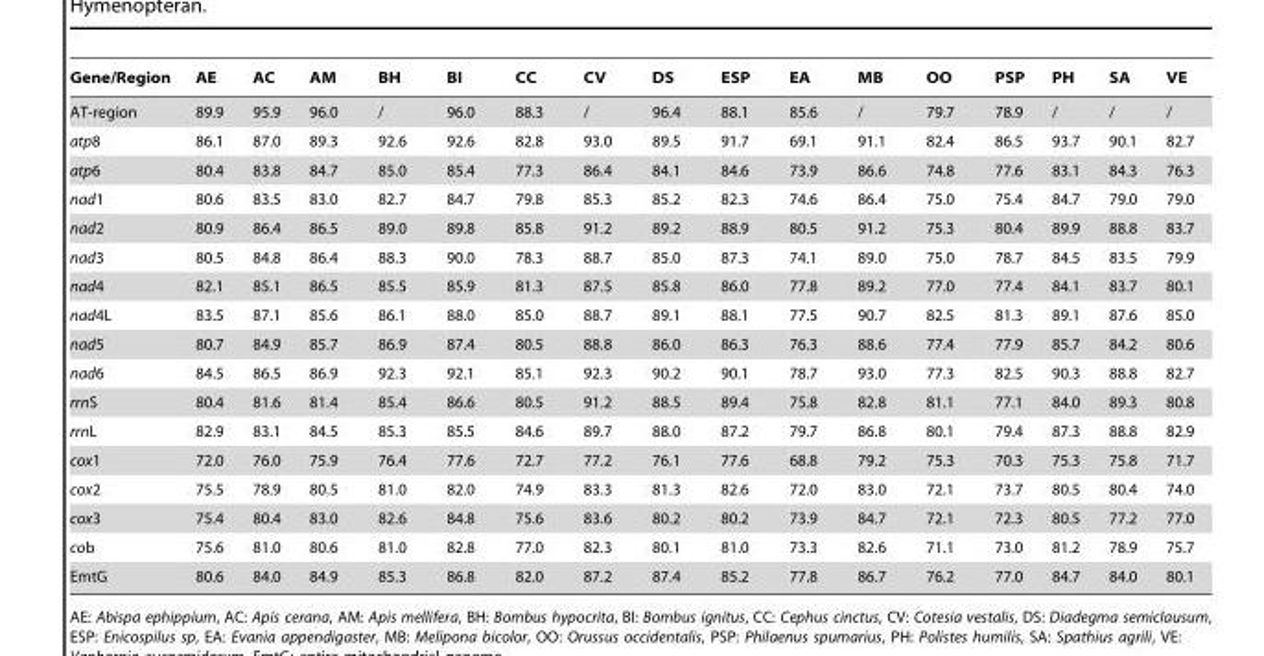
<table><thead><tr><td>Gene/Region</td><td>AE</td><td>AC</td><td>AM</td><td>BH</td><td>BI</td><td>CC</td><td>CV</td><td>DS</td><td>ESP</td><td>EA</td><td>MB</td><td>OO</td><td>PSP</td><td>PH</td><td>SA</td><td>VE</td></tr></thead><tbody><tr><td>AT-region</td><td>89.9</td><td>95.9</td><td>96.0</td><td>/</td><td>96.0</td><td>88.3</td><td>/</td><td>96.4</td><td>88.1</td><td>85.6</td><td>/</td><td>79.7</td><td>78.9</td><td>/</td><td>/</td><td>/</td></tr><tr><td>atp8</td><td>86.1</td><td>87.0</td><td>89.3</td><td>92.6</td><td>92.6</td><td>82.8</td><td>93.0</td><td>89.5</td><td>91.7</td><td>69.1</td><td>91.1</td><td>82.4</td><td>86.5</td><td>93.7</td><td>90.1</td><td>82.7</td></tr><tr><td>atp6</td><td>80.4</td><td>83.8</td><td>84.7</td><td>85.0</td><td>85.4</td><td>77.3</td><td>86.4</td><td>84.1</td><td>84.6</td><td>73.9</td><td>86.6</td><td>74.8</td><td>77.6</td><td>83.1</td><td>84.3</td><td>76.3</td></tr><tr><td>nad1</td><td>80.6</td><td>83.5</td><td>83.0</td><td>82.7</td><td>84.7</td><td>79.8</td><td>85.3</td><td>85.2</td><td>82.3</td><td>74.6</td><td>86.4</td><td>75.0</td><td>75.4</td><td>84.7</td><td>79.0</td><td>79.0</td></tr><tr><td>nad2</td><td>80.9</td><td>86.4</td><td>86.5</td><td>89.0</td><td>89.8</td><td>85.8</td><td>91.2</td><td>89.2</td><td>88.9</td><td>80.5</td><td>91.2</td><td>75.3</td><td>80.4</td><td>89.9</td><td>88.8</td><td>83.7</td></tr><tr><td>nad3</td><td>80.5</td><td>84.8</td><td>86.4</td><td>88.3</td><td>90.0</td><td>78.3</td><td>88.7</td><td>85.0</td><td>87.3</td><td>74.1</td><td>89.0</td><td>75.0</td><td>78.7</td><td>84.5</td><td>83.5</td><td>79.9</td></tr><tr><td>nad4</td><td>82.1</td><td>85.1</td><td>86.5</td><td>85.5</td><td>85.9</td><td>81.3</td><td>87.5</td><td>85.8</td><td>86.0</td><td>77.8</td><td>89.2</td><td>77.0</td><td>77.4</td><td>84.1</td><td>83.7</td><td>80.1</td></tr><tr><td>nad4L</td><td>83.5</td><td>87.1</td><td>85.6</td><td>86.1</td><td>88.0</td><td>85.0</td><td>88.7</td><td>89.1</td><td>88.1</td><td>77.5</td><td>90.7</td><td>82.5</td><td>81.3</td><td>89.1</td><td>87.6</td><td>85.0</td></tr><tr><td>nad5</td><td>80.7</td><td>84.9</td><td>85.7</td><td>86.9</td><td>87.4</td><td>80.5</td><td>88.8</td><td>86.0</td><td>86.3</td><td>76.3</td><td>88.6</td><td>77.4</td><td>77.9</td><td>85.7</td><td>84.2</td><td>80.6</td></tr><tr><td>nad6</td><td>84.5</td><td>86.5</td><td>86.9</td><td>92.3</td><td>92.1</td><td>85.1</td><td>92.3</td><td>90.2</td><td>90.1</td><td>78.7</td><td>93.0</td><td>77.3</td><td>82.5</td><td>90.3</td><td>88.8</td><td>82.7</td></tr><tr><td>rrnS</td><td>80.4</td><td>81.6</td><td>81.4</td><td>85.4</td><td>86.6</td><td>80.5</td><td>91.2</td><td>88.5</td><td>89.4</td><td>75.8</td><td>82.8</td><td>81.1</td><td>77.1</td><td>84.0</td><td>89.3</td><td>80.8</td></tr><tr><td>rrnL</td><td>82.9</td><td>83.1</td><td>84.5</td><td>85.3</td><td>85.5</td><td>84.6</td><td>89.7</td><td>88.0</td><td>87.2</td><td>79.7</td><td>86.8</td><td>80.1</td><td>79.4</td><td>87.3</td><td>88.8</td><td>82.9</td></tr><tr><td>cox1</td><td>72.0</td><td>76.0</td><td>75.9</td><td>76.4</td><td>77.6</td><td>72.7</td><td>77.2</td><td>76.1</td><td>77.6</td><td>68.8</td><td>79.2</td><td>75.3</td><td>70.3</td><td>75.3</td><td>75.8</td><td>71.7</td></tr><tr><td>cox2</td><td>75.5</td><td>78.9</td><td>80.5</td><td>81.0</td><td>82.0</td><td>74.9</td><td>83.3</td><td>81.3</td><td>82.6</td><td>72.0</td><td>83.0</td><td>72.1</td><td>73.7</td><td>80.5</td><td>80.4</td><td>74.0</td></tr><tr><td>cox3</td><td>75.4</td><td>80.4</td><td>83.0</td><td>82.6</td><td>84.8</td><td>75.6</td><td>83.6</td><td>80.2</td><td>80.2</td><td>73.9</td><td>84.7</td><td>72.1</td><td>72.3</td><td>80.5</td><td>77.2</td><td>77.0</td></tr><tr><td>cob</td><td>75.6</td><td>81.0</td><td>80.6</td><td>81.0</td><td>82.8</td><td>77.0</td><td>82.3</td><td>80.1</td><td>81.0</td><td>73.3</td><td>82.6</td><td>71.1</td><td>73.0</td><td>81.2</td><td>78.9</td><td>75.7</td></tr><tr><td>EmtG</td><td>80.6</td><td>84.0</td><td>84.9</td><td>85.3</td><td>86.8</td><td>82.0</td><td>87.2</td><td>87.4</td><td>85.2</td><td>77.8</td><td>86.7</td><td>76.2</td><td>77.0</td><td>84.7</td><td>84.0</td><td>80.1</td></tr></tbody></table>